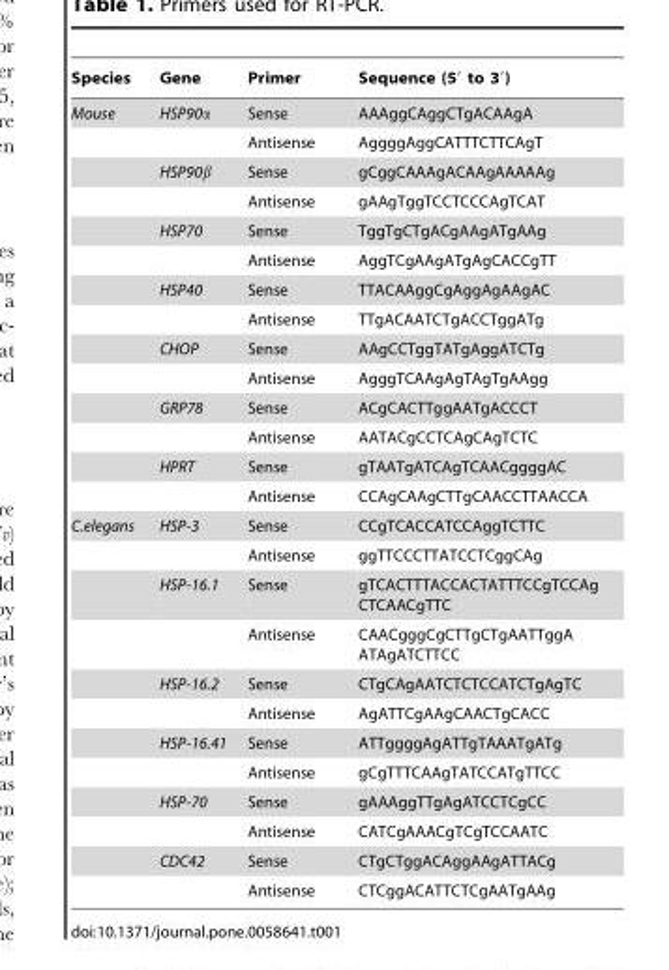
<table><thead><tr><td>Species</td><td>Gene</td><td>Primer</td><td>Sequence (5′ to 3′)</td></tr></thead><tbody><tr><td rowspan="14">Mouse</td><td>HSP90α</td><td>Sense</td><td>AAAggCAggCTgACAAgA</td></tr><tr><td></td><td>Antisense</td><td>AggggAggCATTTCTTCAgT</td></tr><tr><td>HSP90β</td><td>Sense</td><td>gCggCAAAgACAAgAAAAAg</td></tr><tr><td></td><td>Antisense</td><td>gAAgTggTCCTCCCAgTCAT</td></tr><tr><td>HSP70</td><td>Sense</td><td>TggTgCTgACgAAgATgAAg</td></tr><tr><td></td><td>Antisense</td><td>AggTCgAAgATgAgCACCgTT</td></tr><tr><td>HSP40</td><td>Sense</td><td>TTACAAggCgAggAgAAgAC</td></tr><tr><td></td><td>Antisense</td><td>TTgACAATCTgACCTggATg</td></tr><tr><td>CHOP</td><td>Sense</td><td>AAgCCTggTATgAggATCTg</td></tr><tr><td></td><td>Antisense</td><td>AgggTCAAgAgTAgTgAAgg</td></tr><tr><td>GRP78</td><td>Sense</td><td>ACgCACTTggAATgACCCT</td></tr><tr><td></td><td>Antisense</td><td>AATACgCCTCAgCAgTCTC</td></tr><tr><td>HPRT</td><td>Sense</td><td>gTAATgATCAgTCAACggggAC</td></tr><tr><td></td><td>Antisense</td><td>CCAgCAAgCTTgCAACCTTAACCA</td></tr><tr><td rowspan="12">C.elegans</td><td>HSP-3</td><td>Sense</td><td>CCgTCACCATCCAggTCTTC</td></tr><tr><td></td><td>Antisense</td><td>ggTTCCCTTATCCTCggCAg</td></tr><tr><td>HSP-16.1</td><td>Sense</td><td>gTCACTTTACCACTATTTCCgTCCAg CTCAACgTTC</td></tr><tr><td></td><td>Antisense</td><td>CAACgggCgCTTgCTgAATTggA ATAgATCTTCC</td></tr><tr><td>HSP-16.2</td><td>Sense</td><td>CTgCAgAATCTCTCCATCTgAgTC</td></tr><tr><td></td><td>Antisense</td><td>AgATTCgAAgCAACTgCACC</td></tr><tr><td>HSP-16.41</td><td>Sense</td><td>ATTggggAgATTgTAAATgATg</td></tr><tr><td></td><td>Antisense</td><td>gCgTTTCAAgTATCCATgTTCC</td></tr><tr><td>HSP-70</td><td>Sense</td><td>gAAAggTTgAgATCCTCgCC</td></tr><tr><td></td><td>Antisense</td><td>CATCgAAACgTCgTCCAATC</td></tr><tr><td>CDC42</td><td>Sense</td><td>CTgCTggACAggAAgATTACg</td></tr><tr><td></td><td>Antisense</td><td>CTCggACATTCTCgAATgAAg</td></tr></tbody></table>